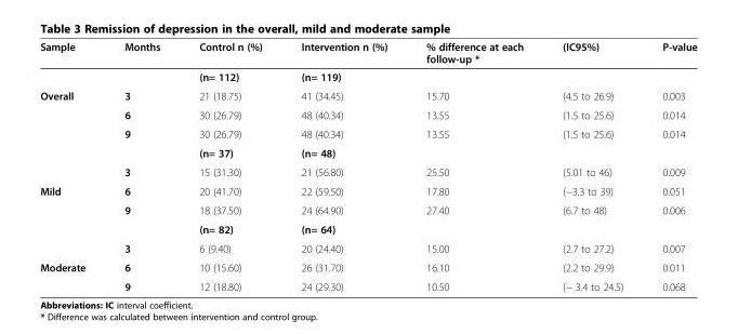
<table><thead><tr><td>Sample</td><td>Months</td><td>Control n (%)</td><td>Intervention n (%)</td><td>% difference at each follow-up *</td><td>(IC95%)</td><td>P-value</td></tr></thead><tbody><tr><td></td><td></td><td>(n= 112)</td><td>(n= 119)</td><td></td><td></td><td></td></tr><tr><td rowspan="5">Overall</td><td>3</td><td>21 (18.75)</td><td>41 (34.45)</td><td>15.70</td><td>(4.5 to 26.9)</td><td>0.003</td></tr><tr><td>6</td><td>30 (26.79)</td><td>48 (40.34)</td><td>13.55</td><td>(1.5 to 25.6)</td><td>0.014</td></tr><tr><td>9</td><td>30 (26.79)</td><td>48 (40.34)</td><td>13.55</td><td>(1.5 to 25.6)</td><td>0.014</td></tr><tr><td></td><td>(n= 37)</td><td>(n= 48)</td><td></td><td></td><td></td></tr><tr><td>3</td><td>15 (31.30)</td><td>21 (56.80)</td><td>25.50</td><td>(5.01 to 46)</td><td>0.009</td></tr><tr><td rowspan="4">Mild</td><td>6</td><td>20 (41.70)</td><td>22 (59.50)</td><td>17.80</td><td>(−3.3 to 39)</td><td>0.051</td></tr><tr><td>9</td><td>18 (37.50)</td><td>24 (64.90)</td><td>27.40</td><td>(6.7 to 48)</td><td>0.006</td></tr><tr><td></td><td>(n= 82)</td><td>(n= 64)</td><td></td><td></td><td></td></tr><tr><td>3</td><td>6 (9.40)</td><td>20 (24.40)</td><td>15.00</td><td>(2.7 to 27.2)</td><td>0.007</td></tr><tr><td rowspan="2">Moderate</td><td>6</td><td>10 (15.60)</td><td>26 (31.70)</td><td>16.10</td><td>(2.2 to 29.9)</td><td>0.011</td></tr><tr><td>9</td><td>12 (18.80)</td><td>24 (29.30)</td><td>10.50</td><td>(− 3.4 to 24.5)</td><td>0.068</td></tr></tbody></table>